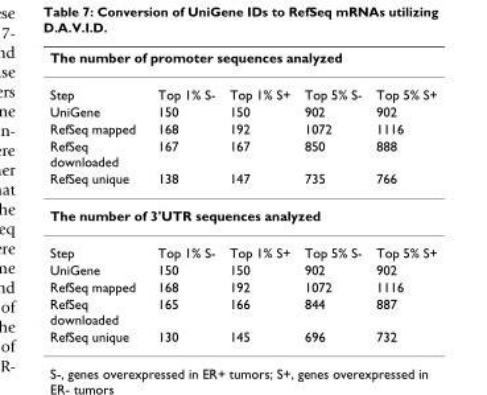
<table><thead><tr><td colspan="5">The number of promoter sequences analyzed</td></tr><tr><td>Step</td><td>Top 1% S-</td><td>Top 1% S+</td><td>Top 5% S-</td><td>Top 5% S+</td></tr></thead><tbody><tr><td>UniGene</td><td>150</td><td>150</td><td>902</td><td>902</td></tr><tr><td>RefSeq mapped</td><td>168</td><td>192</td><td>1072</td><td>1116</td></tr><tr><td>RefSeq downloaded</td><td>167</td><td>167</td><td>850</td><td>888</td></tr><tr><td>RefSeq unique</td><td>138</td><td>147</td><td>735</td><td>766</td></tr><tr><td colspan="5">The number of 3&#x27;UTR sequences analyzed</td></tr><tr><td>Step</td><td>Top 1% S-</td><td>Top 1% S+</td><td>Top 5% S-</td><td>Top 5% S+</td></tr><tr><td>UniGene</td><td>150</td><td>150</td><td>902</td><td>902</td></tr><tr><td>RefSeq mapped</td><td>168</td><td>192</td><td>1072</td><td>1116</td></tr><tr><td>RefSeq downloaded</td><td>165</td><td>166</td><td>844</td><td>887</td></tr><tr><td>RefSeq unique</td><td>130</td><td>145</td><td>696</td><td>732</td></tr></tbody></table>